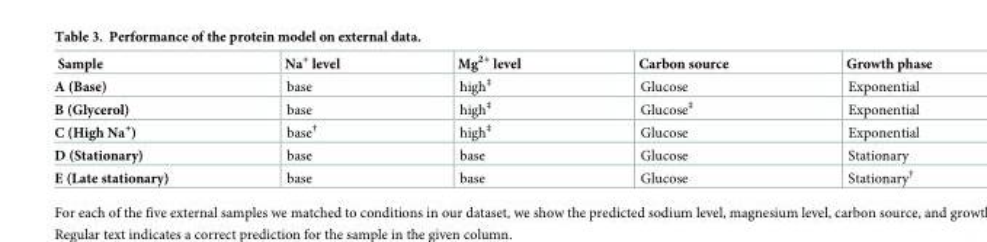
<table><thead><tr><td>Sample</td><td>Na<sup>+</sup> level</td><td>Mg<sup>2+</sup> level</td><td>Carbon source</td><td>Growth phase</td></tr></thead><tbody><tr><td>A (Base)</td><td>base</td><td>high<sup>‡</sup></td><td>Glucose</td><td>Exponential</td></tr><tr><td>B (Glycerol)</td><td>base</td><td>high<sup>‡</sup></td><td>Glucose<sup>‡</sup></td><td>Exponential</td></tr><tr><td>C (High Na<sup>+</sup>)</td><td>base<sup>†</sup></td><td>high<sup>‡</sup></td><td>Glucose</td><td>Exponential</td></tr><tr><td>D (Stationary)</td><td>base</td><td>base</td><td>Glucose</td><td>Stationary</td></tr><tr><td>E (Late stationary)</td><td>base</td><td>base</td><td>Glucose</td><td>Stationary<sup>†</sup></td></tr></tbody></table>